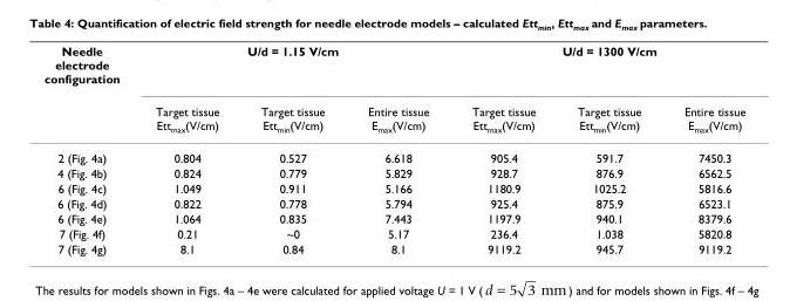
<table><thead><tr><td rowspan="2">Needle electrode configuration</td><td colspan="3">U/d = 1.15 V/cm</td><td colspan="3">U/d = 1300 V/cm</td></tr><tr><td>Target tissue Ett<sub>max</sub>(V/cm)</td><td>Target tissue Ett<sub>min</sub>(V/cm)</td><td>Entire tissue E<sub>max</sub>(V/cm)</td><td>Target tissue Ett<sub>max</sub>(V/cm)</td><td>Target tissue Ett<sub>min</sub>(V/cm)</td><td>Entire tissue E<sub>max</sub>(V/cm)</td></tr></thead><tbody><tr><td>2 (Fig. 4a)</td><td>0.804</td><td>0.527</td><td>6.618</td><td>905.4</td><td>591.7</td><td>7450.3</td></tr><tr><td>4 (Fig. 4b)</td><td>0.824</td><td>0.779</td><td>5.829</td><td>928.7</td><td>876.9</td><td>6562.5</td></tr><tr><td>6 (Fig. 4c)</td><td>1.049</td><td>0.911</td><td>5.166</td><td>1180.9</td><td>1025.2</td><td>5816.6</td></tr><tr><td>6 (Fig. 4d)</td><td>0.822</td><td>0.778</td><td>5.794</td><td>925.4</td><td>875.9</td><td>6523.1</td></tr><tr><td>6 (Fig. 4e)</td><td>1.064</td><td>0.835</td><td>7.443</td><td>1197.9</td><td>940.1</td><td>8379.6</td></tr><tr><td>7 (Fig. 4f)</td><td>0.21</td><td>~0</td><td>5.17</td><td>236.4</td><td>1.038</td><td>5820.8</td></tr><tr><td>7 (Fig. 4g)</td><td>8.1</td><td>0.84</td><td>8.1</td><td>9119.2</td><td>945.7</td><td>9119.2</td></tr></tbody></table>